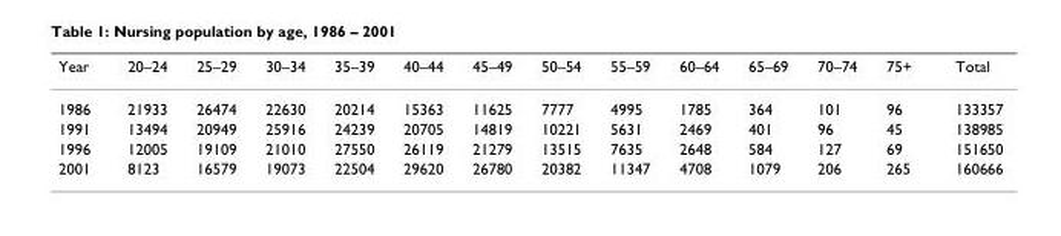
<table><thead><tr><td>Year</td><td>20–24</td><td>25–29</td><td>30–34</td><td>35–39</td><td>40–44</td><td>45–49</td><td>50–54</td><td>55–59</td><td>60–64</td><td>65–69</td><td>70–74</td><td>75+</td><td>Total</td></tr></thead><tbody><tr><td>1986</td><td>21933</td><td>26474</td><td>22630</td><td>20214</td><td>15363</td><td>11625</td><td>7777</td><td>4995</td><td>1785</td><td>364</td><td>101</td><td>96</td><td>133357</td></tr><tr><td>1991</td><td>13494</td><td>20949</td><td>25916</td><td>24239</td><td>20705</td><td>14819</td><td>10221</td><td>5631</td><td>2469</td><td>401</td><td>96</td><td>45</td><td>138985</td></tr><tr><td>1996</td><td>12005</td><td>19109</td><td>21010</td><td>27550</td><td>26119</td><td>21279</td><td>13515</td><td>7635</td><td>2648</td><td>584</td><td>127</td><td>69</td><td>151650</td></tr><tr><td>2001</td><td>8123</td><td>16579</td><td>19073</td><td>22504</td><td>29620</td><td>26780</td><td>20382</td><td>11347</td><td>4708</td><td>1079</td><td>206</td><td>265</td><td>160666</td></tr></tbody></table>